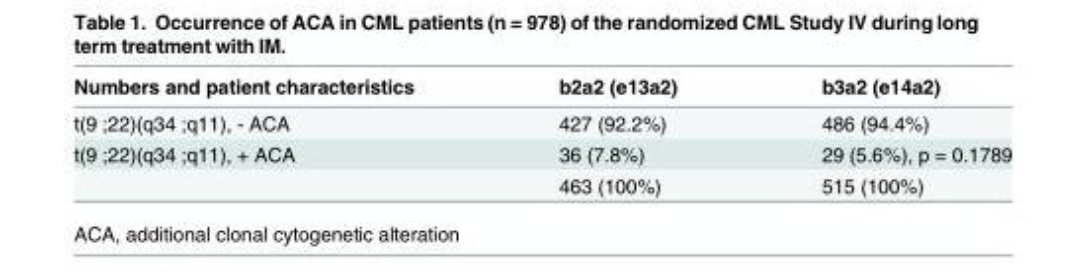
<table><thead><tr><td>Numbers and patient characteristics</td><td>b2a2 (e13a2)</td><td>b3a2 (e14a2)</td></tr></thead><tbody><tr><td>t(9 ;22)(q34 ;q11), - ACA</td><td>427 (92.2%)</td><td>486 (94.4%)</td></tr><tr><td rowspan="2">t(9 ;22)(q34 ;q11), + ACA</td><td>36 (7.8%)</td><td>29 (5.6%), p = 0.1789</td></tr><tr><td>463 (100%)</td><td>515 (100%)</td></tr></tbody></table>